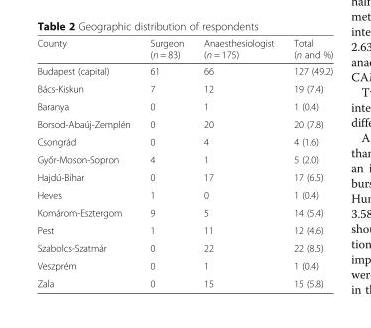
<table><thead><tr><td>County</td><td>Surgeon (n = 83)</td><td>Anaesthesiologist (n = 175)</td><td>Total (n and %)</td></tr></thead><tbody><tr><td>Budapest (capital)</td><td>61</td><td>66</td><td>127 (49.2)</td></tr><tr><td>Bács-Kiskun</td><td>7</td><td>12</td><td>19 (7.4)</td></tr><tr><td>Baranya</td><td>0</td><td>1</td><td>1 (0.4)</td></tr><tr><td>Borsod-Abaúj-Zemplén</td><td>0</td><td>20</td><td>20 (7.8)</td></tr><tr><td>Csongrád</td><td>0</td><td>4</td><td>4 (1.6)</td></tr><tr><td>Győr-Moson-Sopron</td><td>4</td><td>1</td><td>5 (2.0)</td></tr><tr><td>Hajdú-Bihar</td><td>0</td><td>17</td><td>17 (6.5)</td></tr><tr><td>Heves</td><td>1</td><td>0</td><td>1 (0.4)</td></tr><tr><td>Komárom-Esztergom</td><td>9</td><td>5</td><td>14 (5.4)</td></tr><tr><td>Pest</td><td>1</td><td>11</td><td>12 (4.6)</td></tr><tr><td>Szabolcs-Szatmár</td><td>0</td><td>22</td><td>22 (8.5)</td></tr><tr><td>Veszprém</td><td>0</td><td>1</td><td>1 (0.4)</td></tr><tr><td>Zala</td><td>0</td><td>15</td><td>15 (5.8)</td></tr></tbody></table>